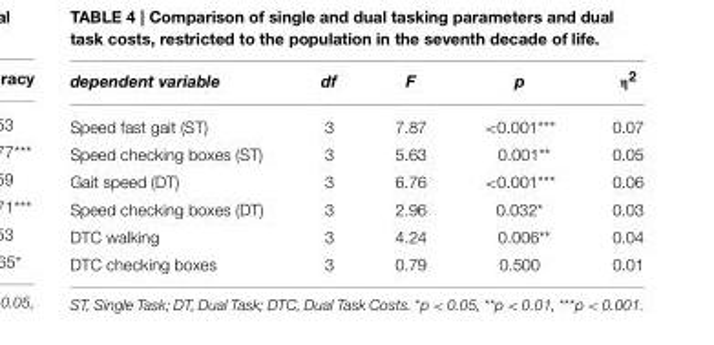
<table><thead><tr><td>dependent variable</td><td>df</td><td>F</td><td>p</td><td>η<sup>2</sup></td></tr></thead><tbody><tr><td>Speed fast gait (ST)</td><td>3</td><td>7.87</td><td>&lt;0.001***</td><td>0.07</td></tr><tr><td>Speed checking boxes (ST)</td><td>3</td><td>5.63</td><td>0.001**</td><td>0.05</td></tr><tr><td>Gait speed (DT)</td><td>3</td><td>6.76</td><td>&lt;0.001***</td><td>0.06</td></tr><tr><td>Speed checking boxes (DT)</td><td>3</td><td>2.96</td><td>0.032*</td><td>0.03</td></tr><tr><td>DTC walking</td><td>3</td><td>4.24</td><td>0.006**</td><td>0.04</td></tr><tr><td>DTC checking boxes</td><td>3</td><td>0.79</td><td>0.500</td><td>0.01</td></tr></tbody></table>